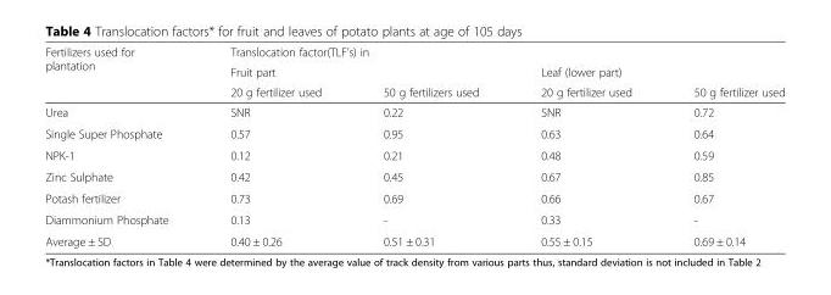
<table><thead><tr><td rowspan="3">Fertilizers used for plantation</td><td colspan="4">Translocation factor(TLF’s) in</td></tr><tr><td colspan="2">Fruit part</td><td colspan="2">Leaf (lower part)</td></tr><tr><td>20 g fertilizer used</td><td>50 g fertilizers used</td><td>20 g fertilizer used</td><td>50 g fertilizer used</td></tr></thead><tbody><tr><td>Urea</td><td>SNR</td><td>0.22</td><td>SNR</td><td>0.72</td></tr><tr><td>Single Super Phosphate</td><td>0.57</td><td>0.95</td><td>0.63</td><td>0.64</td></tr><tr><td>NPK-1</td><td>0.12</td><td>0.21</td><td>0.48</td><td>0.59</td></tr><tr><td>Zinc Sulphate</td><td>0.42</td><td>0.45</td><td>0.67</td><td>0.85</td></tr><tr><td>Potash fertilizer</td><td>0.73</td><td>0.69</td><td>0.66</td><td>0.67</td></tr><tr><td>Diammonium Phosphate</td><td>0.13</td><td>-</td><td>0.33</td><td>-</td></tr><tr><td>Average ± SD</td><td>0.40 ± 0.26</td><td>0.51 ± 0.31</td><td>0.55 ± 0.15</td><td>0.69 ± 0.14</td></tr></tbody></table>